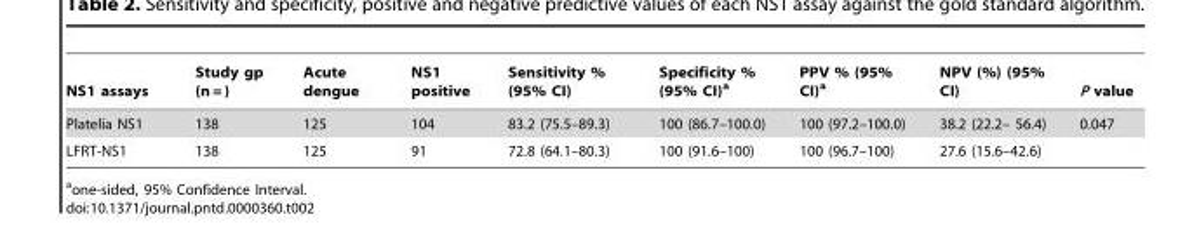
<table><thead><tr><td>NS1 assays</td><td>Study gp (n = )</td><td>Acute dengue</td><td>NS1 positive</td><td>Sensitivity % (95% CI)</td><td>Specificity % (95% CI)<sup>a</sup></td><td>PPV % (95% CI)<sup>a</sup></td><td>NPV (%) (95% CI)</td><td>P value</td></tr></thead><tbody><tr><td>Platelia NS1</td><td>138</td><td>125</td><td>104</td><td>83.2 (75.5–89.3)</td><td>100 (86.7–100.0)</td><td>100 (97.2–100.0)</td><td>38.2 (22.2– 56.4)</td><td>0.047</td></tr><tr><td>LFRT-NS1</td><td>138</td><td>125</td><td>91</td><td>72.8 (64.1–80.3)</td><td>100 (91.6–100)</td><td>100 (96.7–100)</td><td>27.6 (15.6–42.6)</td><td></td></tr></tbody></table>